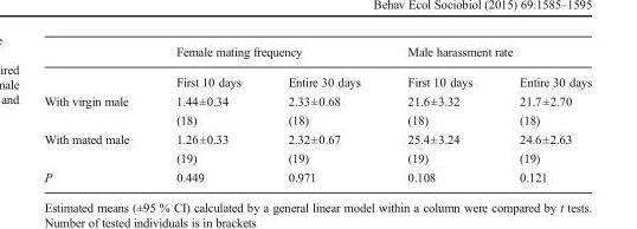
<table><thead><tr><td rowspan="2"></td><td colspan="2">Female mating frequency</td><td colspan="2">Male harassment rate</td></tr><tr><td>First 10 days</td><td>Entire 30 days</td><td>First 10 days</td><td>Entire 30 days</td></tr></thead><tbody><tr><td>With virgin male</td><td>1.44±0.34 (18)</td><td>2.33±0.68 (18)</td><td>21.6±3.32 (18)</td><td>21.7±2.70 (18)</td></tr><tr><td>With mated male</td><td>1.26±0.33 (19)</td><td>2.32±0.67 (19)</td><td>25.4±3.24 (19)</td><td>24.6±2.63 (19)</td></tr><tr><td>P</td><td>0.449</td><td>0.971</td><td>0.108</td><td>0.121</td></tr></tbody></table>